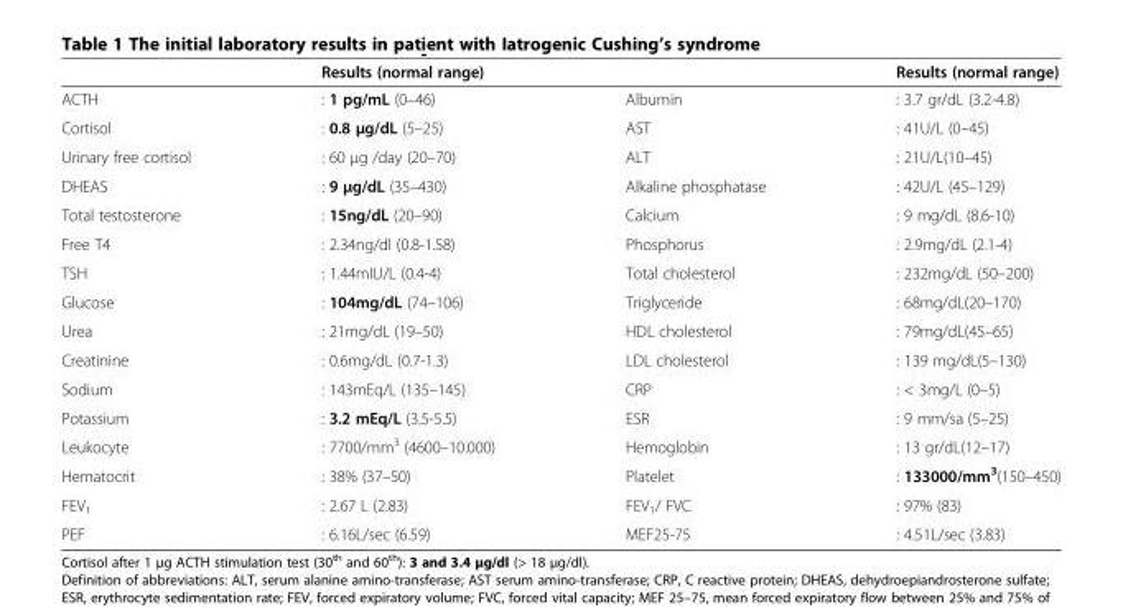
<table><thead><tr><td></td><td>Results (normal range)</td><td></td><td>Results (normal range)</td></tr></thead><tbody><tr><td>ACTH</td><td>: 1 pg/mL (0–46)</td><td>Albumin</td><td>: 3.7 gr/dL (3.2-4.8)</td></tr><tr><td>Cortisol</td><td>: 0.8 μg/dL (5–25)</td><td>AST</td><td>: 41U/L (0–45)</td></tr><tr><td>Urinary free cortisol</td><td>: 60 μg /day (20–70)</td><td>ALT</td><td>: 21U/L(10–45)</td></tr><tr><td>DHEAS</td><td>: 9 μg/dL (35–430)</td><td>Alkaline phosphatase</td><td>: 42U/L (45–129)</td></tr><tr><td>Total testosterone</td><td>: 15ng/dL (20–90)</td><td>Calcium</td><td>: 9 mg/dL (8.6-10)</td></tr><tr><td>Free T4</td><td>: 2.34ng/dl (0.8-1.58)</td><td>Phosphorus</td><td>: 2.9mg/dL (2.1-4)</td></tr><tr><td>TSH</td><td>: 1.44mIU/L (0.4-4)</td><td>Total cholesterol</td><td>: 232mg/dL (50–200)</td></tr><tr><td>Glucose</td><td>: 104mg/dL (74–106)</td><td>Triglyceride</td><td>: 68mg/dL(20–170)</td></tr><tr><td>Urea</td><td>: 21mg/dL (19–50)</td><td>HDL cholesterol</td><td>: 79mg/dL(45–65)</td></tr><tr><td>Creatinine</td><td>: 0.6mg/dL (0.7-1.3)</td><td>LDL cholesterol</td><td>: 139 mg/dL(5–130)</td></tr><tr><td>Sodium</td><td>: 143mEq/L (135–145)</td><td>CRP</td><td>: &lt; 3mg/L (0–5)</td></tr><tr><td>Potassium</td><td>: 3.2 mEq/L (3.5-5.5)</td><td>ESR</td><td>: 9 mm/sa (5–25)</td></tr><tr><td>Leukocyte</td><td>: 7700/mm<sup>3</sup> (4600–10.000)</td><td>Hemoglobin</td><td>: 13 gr/dL(12–17)</td></tr><tr><td>Hematocrit</td><td>: 38% (37–50)</td><td>Platelet</td><td>: 133000/mm<sup>3</sup>(150–450)</td></tr><tr><td>FEV<sub>1</sub></td><td>: 2.67 L (2.83)</td><td>FEV<sub>1</sub>/ FVC</td><td>: 97% (83)</td></tr><tr><td>PEF</td><td>: 6.16L/sec (6.59)</td><td>MEF25-75</td><td>: 4.51L/sec (3.83)</td></tr></tbody></table>